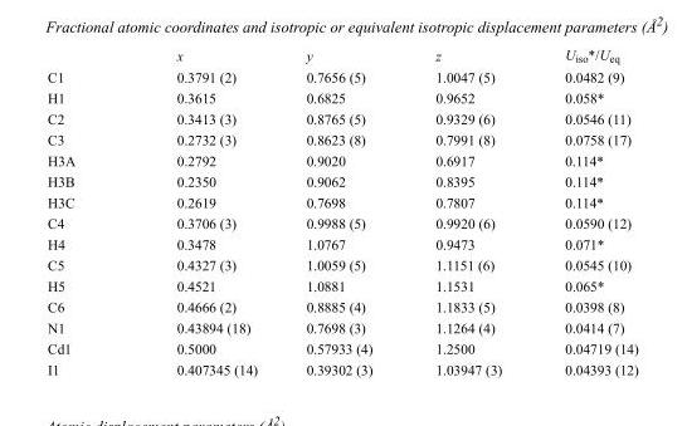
<table><thead><tr><td></td><td>x</td><td>y</td><td>z</td><td>U<sub>iso</sub>*/U<sub>eq</sub></td></tr></thead><tbody><tr><td>C1</td><td>0.3791 (2)</td><td>0.7656 (5)</td><td>1.0047 (5)</td><td>0.0482 (9)</td></tr><tr><td>H1</td><td>0.3615</td><td>0.6825</td><td>0.9652</td><td>0.058*</td></tr><tr><td>C2</td><td>0.3413 (3)</td><td>0.8765 (5)</td><td>0.9329 (6)</td><td>0.0546 (11)</td></tr><tr><td>C3</td><td>0.2732 (3)</td><td>0.8623 (8)</td><td>0.7991 (8)</td><td>0.0758 (17)</td></tr><tr><td>H3A</td><td>0.2792</td><td>0.9020</td><td>0.6917</td><td>0.114*</td></tr><tr><td>H3B</td><td>0.2350</td><td>0.9062</td><td>0.8395</td><td>0.114*</td></tr><tr><td>H3C</td><td>0.2619</td><td>0.7698</td><td>0.7807</td><td>0.114*</td></tr><tr><td>C4</td><td>0.3706 (3)</td><td>0.9988 (5)</td><td>0.9920 (6)</td><td>0.0590 (12)</td></tr><tr><td>H4</td><td>0.3478</td><td>1.0767</td><td>0.9473</td><td>0.071*</td></tr><tr><td>C5</td><td>0.4327 (3)</td><td>1.0059 (5)</td><td>1.1151 (6)</td><td>0.0545 (10)</td></tr><tr><td>H5</td><td>0.4521</td><td>1.0881</td><td>1.1531</td><td>0.065*</td></tr><tr><td>C6</td><td>0.4666 (2)</td><td>0.8885 (4)</td><td>1.1833 (5)</td><td>0.0398 (8)</td></tr><tr><td>N1</td><td>0.43894 (18)</td><td>0.7698 (3)</td><td>1.1264 (4)</td><td>0.0414 (7)</td></tr><tr><td>Cd1</td><td>0.5000</td><td>0.57933 (4)</td><td>1.2500</td><td>0.04719 (14)</td></tr><tr><td>I1</td><td>0.407345 (14)</td><td>0.39302 (3)</td><td>1.03947 (3)</td><td>0.04393 (12)</td></tr></tbody></table>